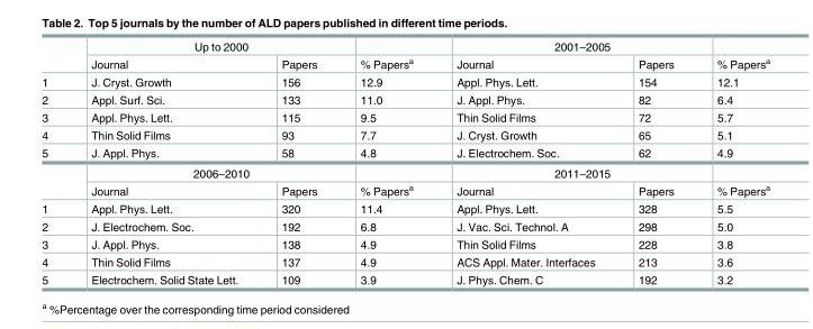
<table><thead><tr><td rowspan="2"></td><td colspan="2">Up to 2000</td><td rowspan="2">% Papers<sup>a</sup></td><td colspan="2">2001–2005</td><td rowspan="2">% Papers<sup>a</sup></td></tr><tr><td>Journal</td><td>Papers</td><td>Journal</td><td>Papers</td></tr></thead><tbody><tr><td>1</td><td>J. Cryst. Growth</td><td>156</td><td>12.9</td><td>Appl. Phys. Lett.</td><td>154</td><td>12.1</td></tr><tr><td>2</td><td>Appl. Surf. Sci.</td><td>133</td><td>11.0</td><td>J. Appl. Phys.</td><td>82</td><td>6.4</td></tr><tr><td>3</td><td>Appl. Phys. Lett.</td><td>115</td><td>9.5</td><td>Thin Solid Films</td><td>72</td><td>5.7</td></tr><tr><td>4</td><td>Thin Solid Films</td><td>93</td><td>7.7</td><td>J. Cryst. Growth</td><td>65</td><td>5.1</td></tr><tr><td rowspan="3">5</td><td>J. Appl. Phys.</td><td>58</td><td>4.8</td><td>J. Electrochem. Soc.</td><td>62</td><td>4.9</td></tr><tr><td colspan="2">2006–2010</td><td></td><td colspan="2">2011–2015</td><td></td></tr><tr><td>Journal</td><td>Papers</td><td>% Papers<sup>a</sup></td><td>Journal</td><td>Papers</td><td>% Papers<sup>a</sup></td></tr><tr><td>1</td><td>Appl. Phys. Lett.</td><td>320</td><td>11.4</td><td>Appl. Phys. Lett.</td><td>328</td><td>5.5</td></tr><tr><td>2</td><td>J. Electrochem. Soc.</td><td>192</td><td>6.8</td><td>J. Vac. Sci. Technol. A</td><td>298</td><td>5.0</td></tr><tr><td>3</td><td>J. Appl. Phys.</td><td>138</td><td>4.9</td><td>Thin Solid Films</td><td>228</td><td>3.8</td></tr><tr><td>4</td><td>Thin Solid Films</td><td>137</td><td>4.9</td><td>ACS Appl. Mater. Interfaces</td><td>213</td><td>3.6</td></tr><tr><td>5</td><td>Electrochem. Solid State Lett.</td><td>109</td><td>3.9</td><td>J. Phys. Chem. C</td><td>192</td><td>3.2</td></tr></tbody></table>